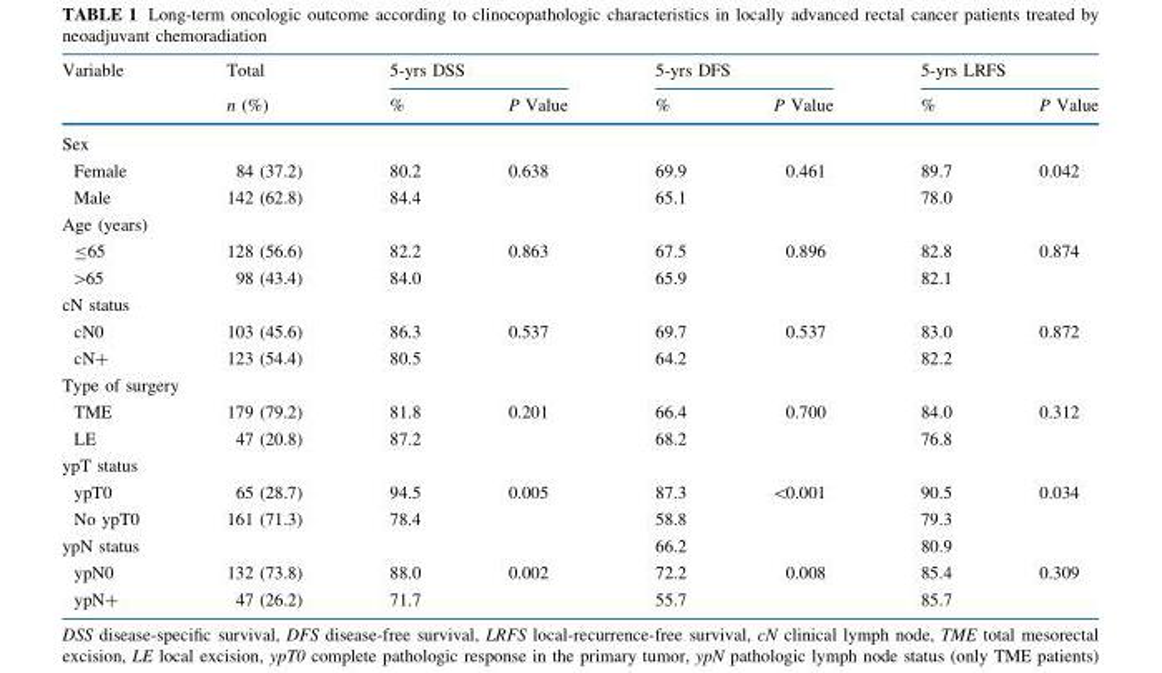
<table><thead><tr><td rowspan="2">Variable</td><td rowspan="2">Total n (%)</td><td colspan="2">5-yrs DSS</td><td colspan="2">5-yrs DFS</td><td colspan="2">5-yrs LRFS</td></tr><tr><td>%</td><td>P Value</td><td>%</td><td>P Value</td><td>%</td><td>P Value</td></tr></thead><tbody><tr><td colspan="8">Sex</td></tr><tr><td>Female</td><td>84 (37.2)</td><td>80.2</td><td rowspan="2">0.638</td><td>69.9</td><td rowspan="2">0.461</td><td>89.7</td><td rowspan="2">0.042</td></tr><tr><td>Male</td><td>142 (62.8)</td><td>84.4</td><td>65.1</td><td>78.0</td></tr><tr><td colspan="8">Age (years)</td></tr><tr><td>≤65</td><td>128 (56.6)</td><td>82.2</td><td rowspan="2">0.863</td><td>67.5</td><td rowspan="2">0.896</td><td>82.8</td><td rowspan="2">0.874</td></tr><tr><td>&gt;65</td><td>98 (43.4)</td><td>84.0</td><td>65.9</td><td>82.1</td></tr><tr><td colspan="8">cN status</td></tr><tr><td>cN0</td><td>103 (45.6)</td><td>86.3</td><td rowspan="2">0.537</td><td>69.7</td><td rowspan="2">0.537</td><td>83.0</td><td rowspan="2">0.872</td></tr><tr><td>cN+</td><td>123 (54.4)</td><td>80.5</td><td>64.2</td><td>82.2</td></tr><tr><td colspan="8">Type of surgery</td></tr><tr><td>TME</td><td>179 (79.2)</td><td>81.8</td><td rowspan="2">0.201</td><td>66.4</td><td rowspan="2">0.700</td><td>84.0</td><td rowspan="2">0.312</td></tr><tr><td>LE</td><td>47 (20.8)</td><td>87.2</td><td>68.2</td><td>76.8</td></tr><tr><td colspan="8">ypT status</td></tr><tr><td>ypT0</td><td>65 (28.7)</td><td>94.5</td><td rowspan="2">0.005</td><td>87.3</td><td rowspan="2">&lt;0.001</td><td>90.5</td><td rowspan="2">0.034</td></tr><tr><td>No ypT0</td><td>161 (71.3)</td><td>78.4</td><td>58.8</td><td>79.3</td></tr><tr><td>ypN status</td><td></td><td></td><td></td><td>66.2</td><td></td><td>80.9</td><td></td></tr><tr><td>ypN0</td><td>132 (73.8)</td><td>88.0</td><td rowspan="2">0.002</td><td>72.2</td><td>0.008</td><td>85.4</td><td rowspan="2">0.309</td></tr><tr><td>ypN+</td><td>47 (26.2)</td><td>71.7</td><td>55.7</td><td></td><td>85.7</td></tr></tbody></table>